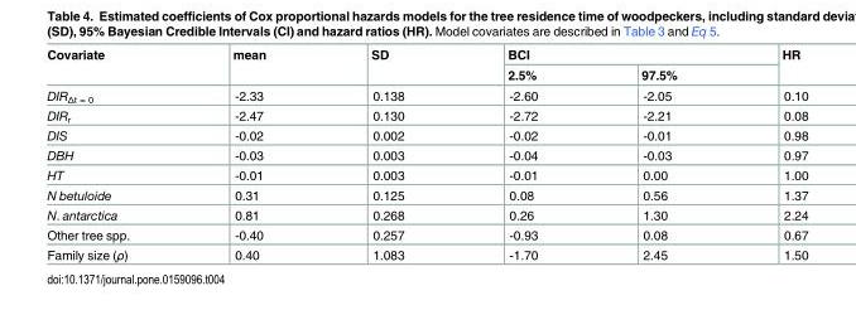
<table><thead><tr><td rowspan="2">Covariate</td><td rowspan="2">mean</td><td rowspan="2">SD</td><td colspan="2">BCI</td><td rowspan="2">HR</td></tr><tr><td>2.5%</td><td>97.5%</td></tr></thead><tbody><tr><td>DIR<sub>Δt = 0</sub></td><td>-2.33</td><td>0.138</td><td>-2.60</td><td>-2.05</td><td>0.10</td></tr><tr><td>DIR<sub>r</sub></td><td>-2.47</td><td>0.130</td><td>-2.72</td><td>-2.21</td><td>0.08</td></tr><tr><td>DIS</td><td>-0.02</td><td>0.002</td><td>-0.02</td><td>-0.01</td><td>0.98</td></tr><tr><td>DBH</td><td>-0.03</td><td>0.003</td><td>-0.04</td><td>-0.03</td><td>0.97</td></tr><tr><td>HT</td><td>-0.01</td><td>0.003</td><td>-0.01</td><td>0.00</td><td>1.00</td></tr><tr><td>N betuloide</td><td>0.31</td><td>0.125</td><td>0.08</td><td>0.56</td><td>1.37</td></tr><tr><td>N. antarctica</td><td>0.81</td><td>0.268</td><td>0.26</td><td>1.30</td><td>2.24</td></tr><tr><td>Other tree spp.</td><td>-0.40</td><td>0.257</td><td>-0.93</td><td>0.08</td><td>0.67</td></tr><tr><td>Family size (ρ)</td><td>0.40</td><td>1.083</td><td>-1.70</td><td>2.45</td><td>1.50</td></tr></tbody></table>